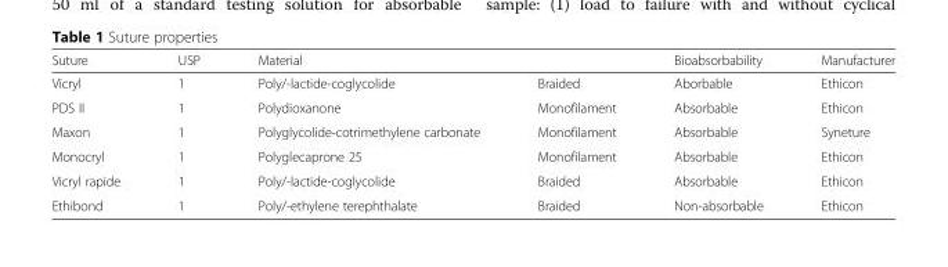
<table><thead><tr><td>Suture</td><td>USP</td><td>Material</td><td></td><td>Bioabsorbability</td><td>Manufacturer</td></tr></thead><tbody><tr><td>Vicryl</td><td>1</td><td>Poly/-lactide-coglycolide</td><td>Braided</td><td>Aborbable</td><td>Ethicon</td></tr><tr><td>PDS II</td><td>1</td><td>Polydioxanone</td><td>Monofilament</td><td>Absorbable</td><td>Ethicon</td></tr><tr><td>Maxon</td><td>1</td><td>Polyglycolide-cotrimethylene carbonate</td><td>Monofilament</td><td>Absorbable</td><td>Syneture</td></tr><tr><td>Monocryl</td><td>1</td><td>Polyglecaprone 25</td><td>Monofilament</td><td>Absorbable</td><td>Ethicon</td></tr><tr><td>Vicryl rapide</td><td>1</td><td>Poly/-lactide-coglycolide</td><td>Braided</td><td>Absorbable</td><td>Ethicon</td></tr><tr><td>Ethibond</td><td>1</td><td>Poly/-ethylene terephthalate</td><td>Braided</td><td>Non-absorbable</td><td>Ethicon</td></tr></tbody></table>